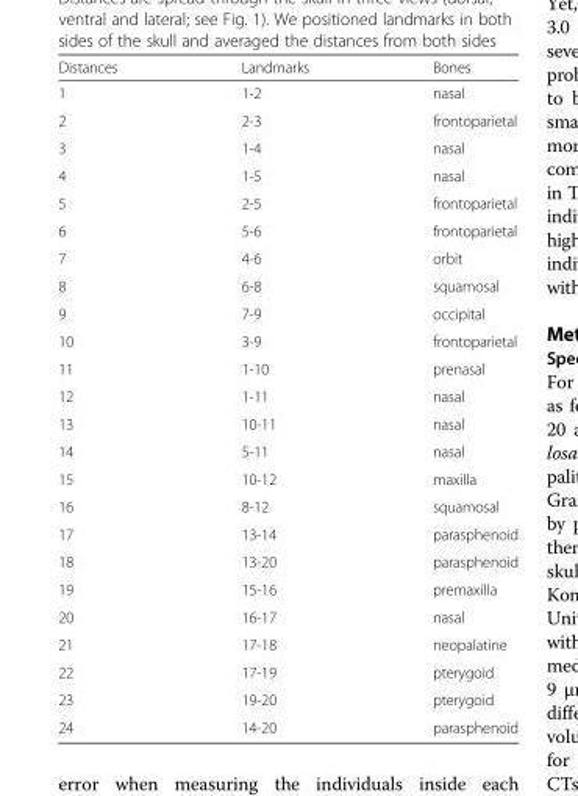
<table><thead><tr><td>Distances</td><td>Landmarks</td><td>Bones</td></tr></thead><tbody><tr><td>1</td><td>1-2</td><td>nasal</td></tr><tr><td>2</td><td>2-3</td><td>frontoparietal</td></tr><tr><td>3</td><td>1-4</td><td>nasal</td></tr><tr><td>4</td><td>1-5</td><td>nasal</td></tr><tr><td>5</td><td>2-5</td><td>frontoparietal</td></tr><tr><td>6</td><td>5-6</td><td>frontoparietal</td></tr><tr><td>7</td><td>4-6</td><td>orbit</td></tr><tr><td>8</td><td>6-8</td><td>squamosal</td></tr><tr><td>9</td><td>7-9</td><td>occipital</td></tr><tr><td>10</td><td>3-9</td><td>frontoparietal</td></tr><tr><td>11</td><td>1-10</td><td>prenasal</td></tr><tr><td>12</td><td>1-11</td><td>nasal</td></tr><tr><td>13</td><td>10-11</td><td>nasal</td></tr><tr><td>14</td><td>5-11</td><td>nasal</td></tr><tr><td>15</td><td>10-12</td><td>maxilla</td></tr><tr><td>16</td><td>8-12</td><td>squamosal</td></tr><tr><td>17</td><td>13-14</td><td>parasphenoid</td></tr><tr><td>18</td><td>13-20</td><td>parasphenoid</td></tr><tr><td>19</td><td>15-16</td><td>premaxilla</td></tr><tr><td>20</td><td>16-17</td><td>nasal</td></tr><tr><td>21</td><td>17-18</td><td>neopalatine</td></tr><tr><td>22</td><td>17-19</td><td>pterygoid</td></tr><tr><td>23</td><td>19-20</td><td>pterygoid</td></tr><tr><td>24</td><td>14-20</td><td>parasphenoid</td></tr></tbody></table>